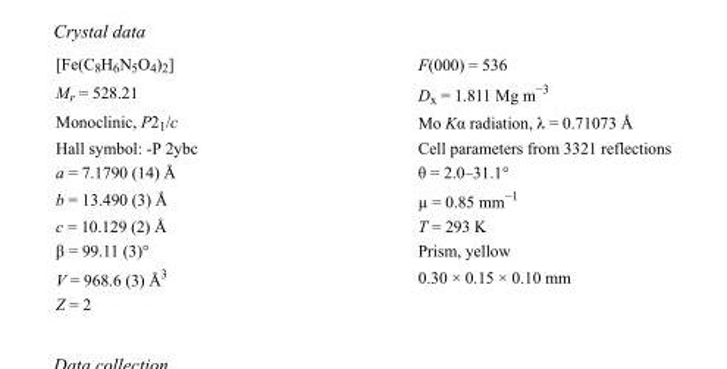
<table><tbody><tr><td>[Fe(C<sub>8</sub>H<sub>6</sub>N<sub>5</sub>O<sub>4</sub>)<sub>2</sub>]</td><td>F(000) = 536</td></tr><tr><td>M<sub>r</sub> = 528.21</td><td>D<sub>x</sub> = 1.811 Mg m<sup>−3</sup></td></tr><tr><td>Monoclinic, P2<sub>1</sub>/c</td><td>Mo Kα radiation, λ = 0.71073 Å</td></tr><tr><td>Hall symbol: -P 2ybc</td><td>Cell parameters from 3321 reflections</td></tr><tr><td>a = 7.1790 (14) Å</td><td>θ = 2.0–31.1°</td></tr><tr><td>b = 13.490 (3) Å</td><td>µ = 0.85 mm<sup>−1</sup></td></tr><tr><td>c = 10.129 (2) Å</td><td>T = 293 K</td></tr><tr><td>β = 99.11 (3)°</td><td>Prism, yellow</td></tr><tr><td>V = 968.6 (3) Å<sup>3</sup></td><td>0.30 × 0.15 × 0.10 mm</td></tr><tr><td>Z = 2</td><td></td></tr></tbody></table>